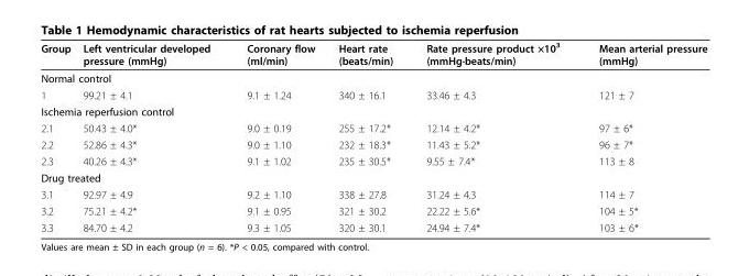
<table><thead><tr><td>Group</td><td>Left ventricular developed pressure (mmHg)</td><td>Coronary flow (ml/min)</td><td>Heart rate (beats/min)</td><td>Rate pressure product ×10<sup>3</sup> (mmHg·beats/min)</td><td>Mean arterial pressure (mmHg)</td></tr></thead><tbody><tr><td colspan="6">Normal control</td></tr><tr><td>1</td><td>99.21 ± 4.1</td><td>9.1 ± 1.24</td><td>340 ± 16.1</td><td>33.46 ± 4.3</td><td>121 ± 7</td></tr><tr><td colspan="6">Ischemia reperfusion control</td></tr><tr><td>2.1</td><td>50.43 ± 4.0*</td><td>9.0 ± 0.19</td><td>255 ± 17.2*</td><td>12.14 ± 4.2*</td><td>97 ± 6*</td></tr><tr><td>2.2</td><td>52.86 ± 4.3*</td><td>9.0 ± 1.10</td><td>232 ± 18.3*</td><td>11.43 ± 5.2*</td><td>96 ± 7*</td></tr><tr><td>2.3</td><td>40.26 ± 4.3*</td><td>9.1 ± 1.02</td><td>235 ± 30.5*</td><td>9.55 ± 7.4*</td><td>113 ± 8</td></tr><tr><td colspan="6">Drug treated</td></tr><tr><td>3.1</td><td>92.97 ± 4.9</td><td>9.2 ± 1.10</td><td>338 ± 27.8</td><td>31.24 ± 4.3</td><td>114 ± 7</td></tr><tr><td>3.2</td><td>75.21 ± 4.2*</td><td>9.1 ± 0.95</td><td>321 ± 30.2</td><td>22.22 ± 5.6*</td><td>104 ± 5*</td></tr><tr><td>3.3</td><td>84.70 ± 4.2</td><td>9.3 ± 1.05</td><td>320 ± 30.1</td><td>24.94 ± 7.4*</td><td>103 ± 6*</td></tr></tbody></table>